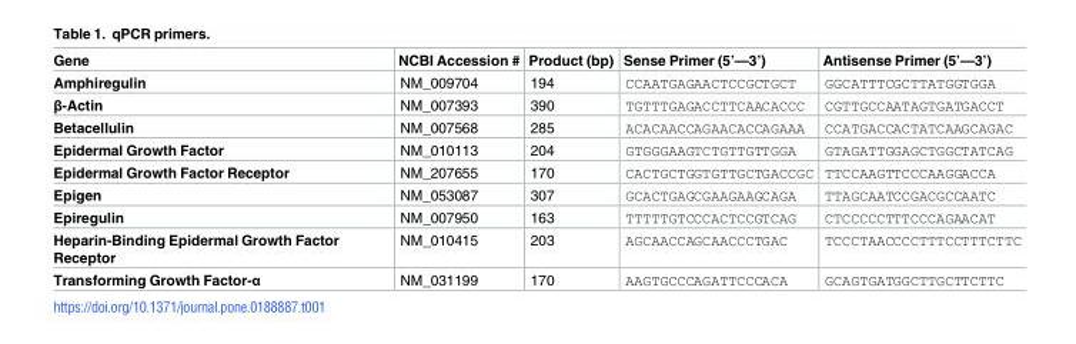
<table><thead><tr><td>Gene</td><td>NCBI Accession #</td><td>Product (bp)</td><td>Sense Primer (5’—3’)</td><td>Antisense Primer (5’—3’)</td></tr></thead><tbody><tr><td>Amphiregulin</td><td>NM_009704</td><td>194</td><td>CCAATGAGAACTCCGCTGCT</td><td>GGCATTTCGCTTATGGTGGA</td></tr><tr><td>β-Actin</td><td>NM_007393</td><td>390</td><td>TGTTTGAGACCTTCAACACCC</td><td>CGTTGCCAATAGTGATGACCT</td></tr><tr><td>Betacellulin</td><td>NM_007568</td><td>285</td><td>ACACAACCAGAACACCAGAAA</td><td>CCATGACCACTATCAAGCAGAC</td></tr><tr><td>Epidermal Growth Factor</td><td>NM_010113</td><td>204</td><td>GTGGGAAGTCTGTTGTTGGA</td><td>GTAGATTGGAGCTGGCTATCAG</td></tr><tr><td>Epidermal Growth Factor Receptor</td><td>NM_207655</td><td>170</td><td>CACTGCTGGTGTTGCTGACCGC</td><td>TTCCAAGTTCCCAAGGACCA</td></tr><tr><td>Epigen</td><td>NM_053087</td><td>307</td><td>GCACTGAGCGAAGAAGCAGA</td><td>TTAGCAATCCGACGCCAATC</td></tr><tr><td>Epiregulin</td><td>NM_007950</td><td>163</td><td>TTTTTGTCCCACTCCGTCAG</td><td>CTCCCCCTTTCCCAGAACAT</td></tr><tr><td>Heparin-Binding Epidermal Growth Factor Receptor</td><td>NM_010415</td><td>203</td><td>AGCAACCAGCAACCCTGAC</td><td>TCCCTAACCCCTTTCCTTTCTTC</td></tr><tr><td>Transforming Growth Factor-α</td><td>NM_031199</td><td>170</td><td>AAGTGCCCAGATTCCCACA</td><td>GCAGTGATGGCTTGCTTCTTC</td></tr></tbody></table>